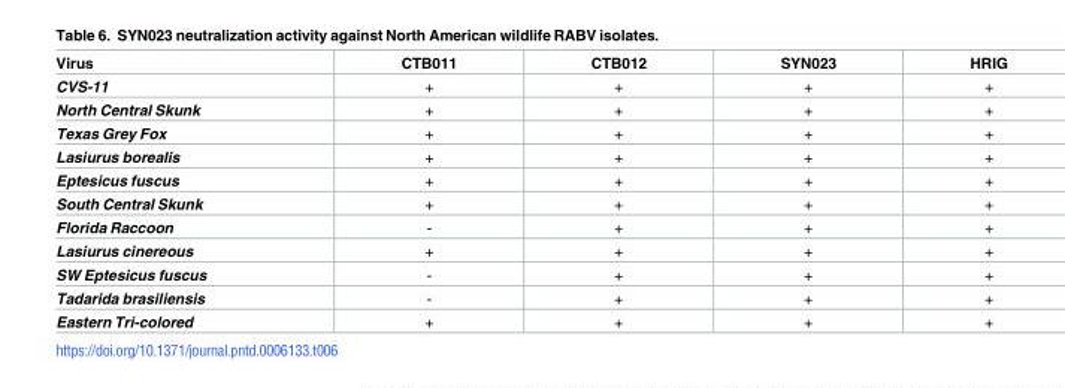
<table><thead><tr><td>Virus</td><td>CTB011</td><td>CTB012</td><td>SYN023</td><td>HRIG</td></tr></thead><tbody><tr><td>CVS-11</td><td>+</td><td>+</td><td>+</td><td>+</td></tr><tr><td>North Central Skunk</td><td>+</td><td>+</td><td>+</td><td>+</td></tr><tr><td>Texas Grey Fox</td><td>+</td><td>+</td><td>+</td><td>+</td></tr><tr><td>Lasiurus borealis</td><td>+</td><td>+</td><td>+</td><td>+</td></tr><tr><td>Eptesicus fuscus</td><td>+</td><td>+</td><td>+</td><td>+</td></tr><tr><td>South Central Skunk</td><td>+</td><td>+</td><td>+</td><td>+</td></tr><tr><td>Florida Raccoon</td><td>-</td><td>+</td><td>+</td><td>+</td></tr><tr><td>Lasiurus cinereous</td><td>+</td><td>+</td><td>+</td><td>+</td></tr><tr><td>SW Eptesicus fuscus</td><td>-</td><td>+</td><td>+</td><td>+</td></tr><tr><td>Tadarida brasiliensis</td><td>-</td><td>+</td><td>+</td><td>+</td></tr><tr><td>Eastern Tri-colored</td><td>+</td><td>+</td><td>+</td><td>+</td></tr></tbody></table>